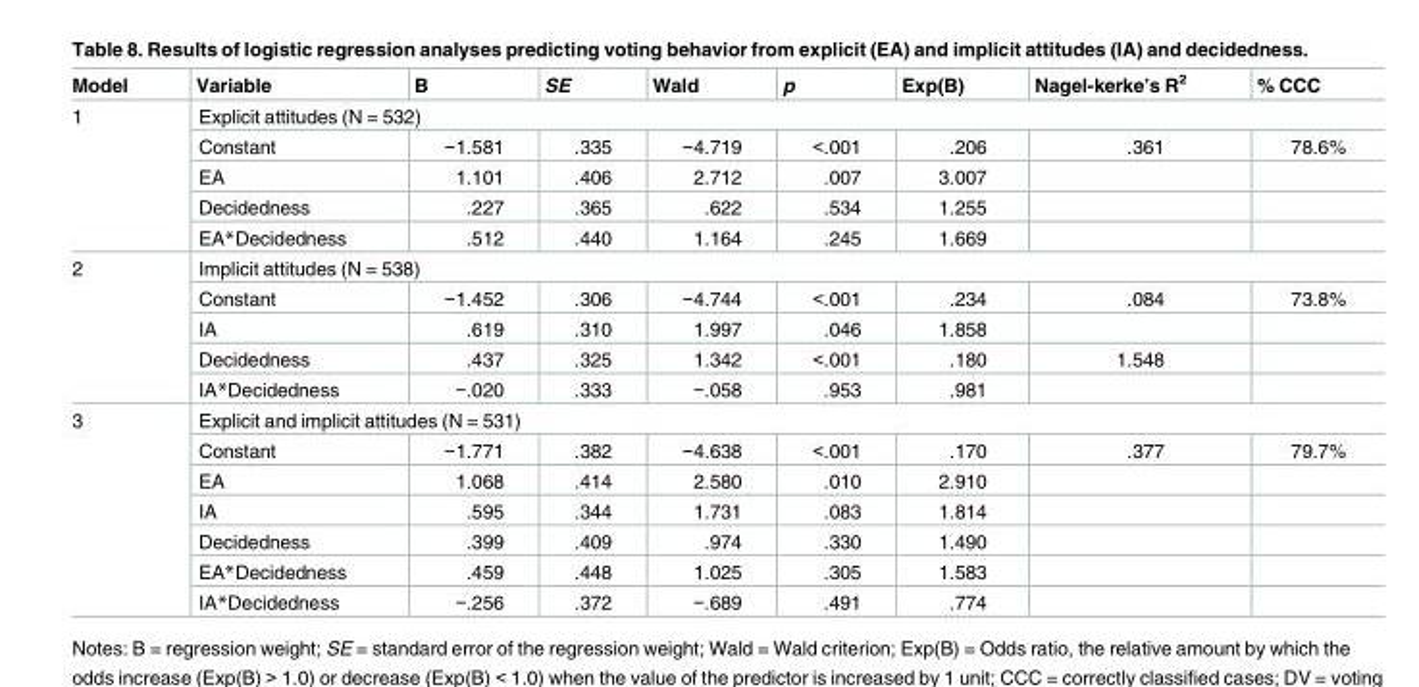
<table><thead><tr><td>Model</td><td>Variable</td><td>B</td><td>SE</td><td>Wald</td><td>p</td><td>Exp(B)</td><td>Nagel-kerke’s R<sup>2</sup></td><td>% CCC</td></tr></thead><tbody><tr><td rowspan="5">1</td><td colspan="8">Explicit attitudes (N = 532)</td></tr><tr><td>Constant</td><td>−1.581</td><td>.335</td><td>−4.719</td><td>&lt;.001</td><td>.206</td><td>.361</td><td>78.6%</td></tr><tr><td>EA</td><td>1.101</td><td>.406</td><td>2.712</td><td>.007</td><td>3.007</td><td></td><td></td></tr><tr><td>Decidedness</td><td>.227</td><td>.365</td><td>.622</td><td>.534</td><td>1.255</td><td></td><td></td></tr><tr><td>EA*Decidedness</td><td>.512</td><td>.440</td><td>1.164</td><td>.245</td><td>1.669</td><td></td><td></td></tr><tr><td rowspan="5">2</td><td colspan="8">Implicit attitudes (N = 538)</td></tr><tr><td>Constant</td><td>−1.452</td><td>.306</td><td>−4.744</td><td>&lt;.001</td><td>.234</td><td>.084</td><td>73.8%</td></tr><tr><td>IA</td><td>.619</td><td>.310</td><td>1.997</td><td>.046</td><td>1.858</td><td></td><td></td></tr><tr><td>Decidedness</td><td>.437</td><td>.325</td><td>1.342</td><td>&lt;.001</td><td>.180</td><td>1.548</td><td></td></tr><tr><td>IA*Decidedness</td><td>−.020</td><td>.333</td><td>−.058</td><td>.953</td><td>.981</td><td></td><td></td></tr><tr><td rowspan="7">3</td><td colspan="8">Explicit and implicit attitudes (N = 531)</td></tr><tr><td>Constant</td><td>−1.771</td><td>.382</td><td>−4.638</td><td>&lt;.001</td><td>.170</td><td>.377</td><td>79.7%</td></tr><tr><td>EA</td><td>1.068</td><td>.414</td><td>2.580</td><td>.010</td><td>2.910</td><td></td><td></td></tr><tr><td>IA</td><td>.595</td><td>.344</td><td>1.731</td><td>.083</td><td>1.814</td><td></td><td></td></tr><tr><td>Decidedness</td><td>.399</td><td>.409</td><td>.974</td><td>.330</td><td>1.490</td><td></td><td></td></tr><tr><td>EA*Decidedness</td><td>.459</td><td>.448</td><td>1.025</td><td>.305</td><td>1.583</td><td></td><td></td></tr><tr><td>IA*Decidedness</td><td>−.256</td><td>.372</td><td>−.689</td><td>.491</td><td>.774</td><td></td><td></td></tr></tbody></table>